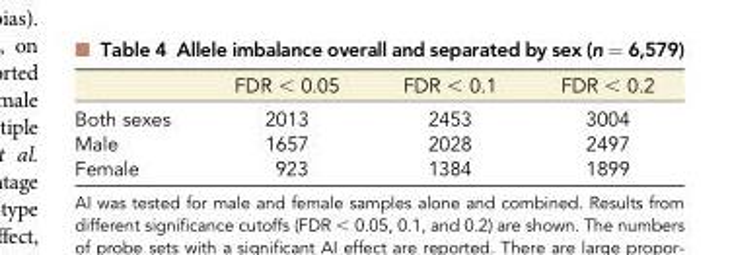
<table><thead><tr><td></td><td>FDR &lt; 0.05</td><td>FDR &lt; 0.1</td><td>FDR &lt; 0.2</td></tr></thead><tbody><tr><td>Both sexes</td><td>2013</td><td>2453</td><td>3004</td></tr><tr><td>Male</td><td>1657</td><td>2028</td><td>2497</td></tr><tr><td>Female</td><td>923</td><td>1384</td><td>1899</td></tr></tbody></table>